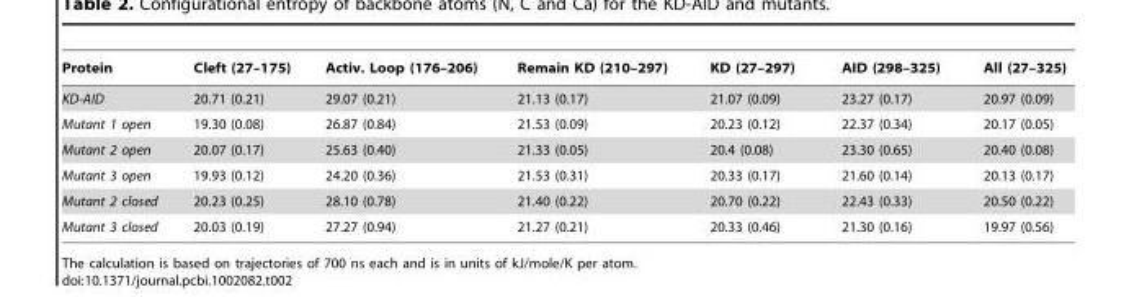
<table><thead><tr><td>Protein</td><td>Cleft (27–175)</td><td>Activ. Loop (176–206)</td><td>Remain KD (210–297)</td><td>KD (27–297)</td><td>AID (298–325)</td><td>All (27–325)</td></tr></thead><tbody><tr><td>KD-AID</td><td>20.71 (0.21)</td><td>29.07 (0.21)</td><td>21.13 (0.17)</td><td>21.07 (0.09)</td><td>23.27 (0.17)</td><td>20.97 (0.09)</td></tr><tr><td>Mutant 1 open</td><td>19.30 (0.08)</td><td>26.87 (0.84)</td><td>21.53 (0.09)</td><td>20.23 (0.12)</td><td>22.37 (0.34)</td><td>20.17 (0.05)</td></tr><tr><td>Mutant 2 open</td><td>20.07 (0.17)</td><td>25.63 (0.40)</td><td>21.33 (0.05)</td><td>20.4 (0.08)</td><td>23.30 (0.65)</td><td>20.40 (0.08)</td></tr><tr><td>Mutant 3 open</td><td>19.93 (0.12)</td><td>24.20 (0.36)</td><td>21.53 (0.31)</td><td>20.33 (0.17)</td><td>21.60 (0.14)</td><td>20.13 (0.17)</td></tr><tr><td>Mutant 2 closed</td><td>20.23 (0.25)</td><td>28.10 (0.78)</td><td>21.40 (0.22)</td><td>20.70 (0.22)</td><td>22.43 (0.33)</td><td>20.50 (0.22)</td></tr><tr><td>Mutant 3 closed</td><td>20.03 (0.19)</td><td>27.27 (0.94)</td><td>21.27 (0.21)</td><td>20.33 (0.46)</td><td>21.30 (0.16)</td><td>19.97 (0.56)</td></tr></tbody></table>